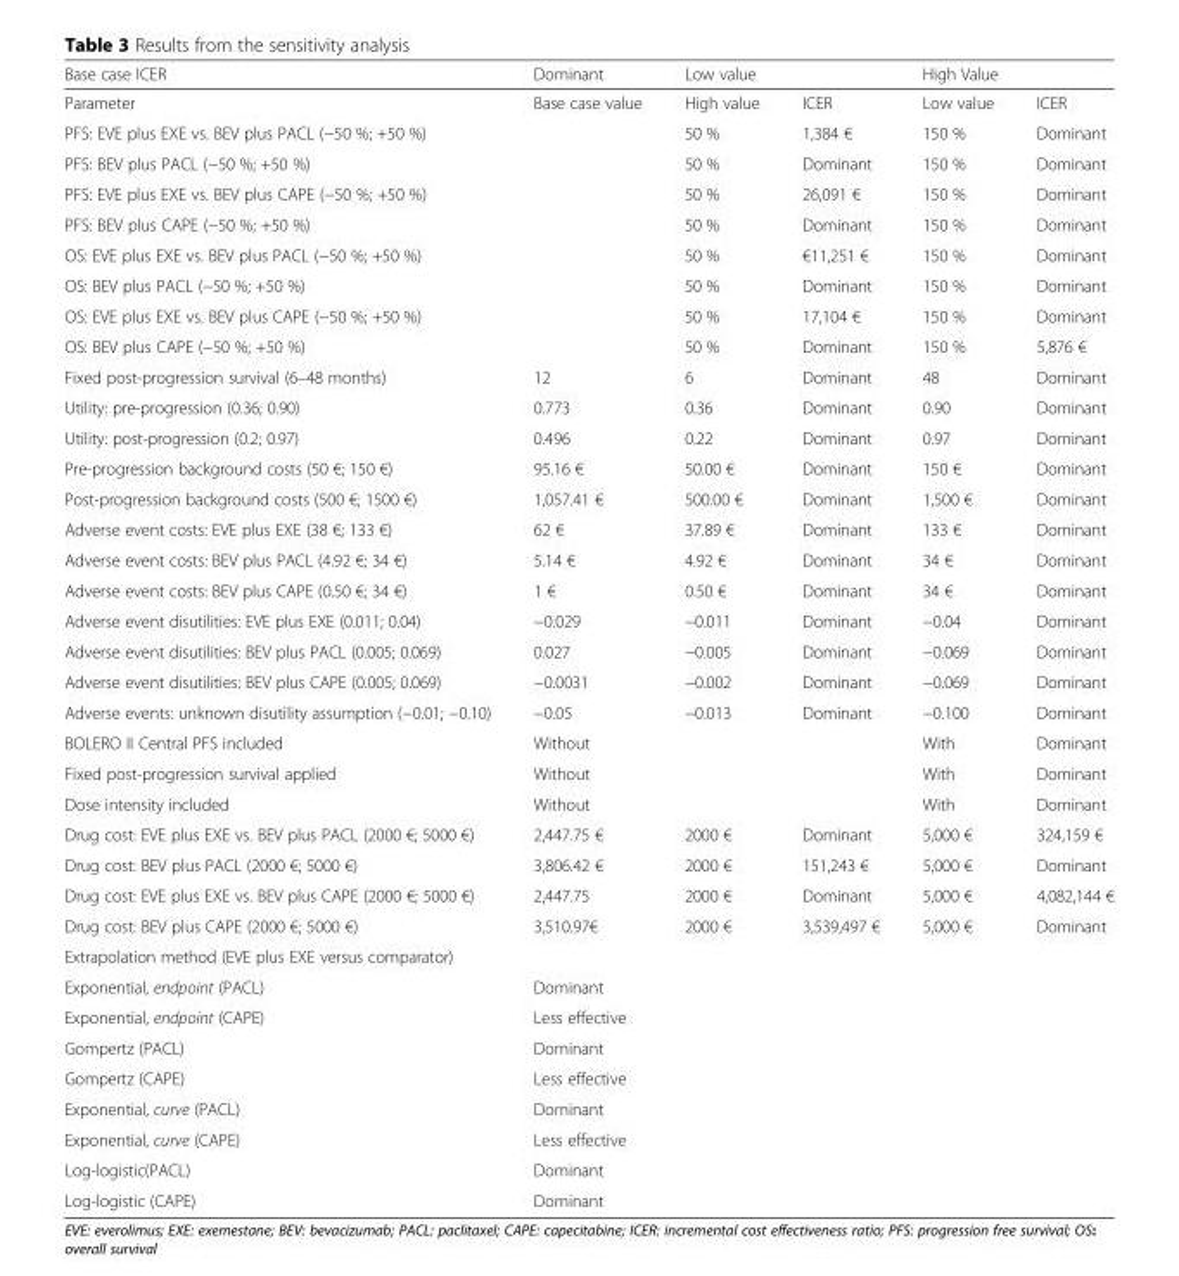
<table><thead><tr><td rowspan="2">Base case ICER Parameter</td><td rowspan="2">Dominant Base case value</td><td colspan="2">Low value</td><td colspan="2">High Value</td></tr><tr><td>High value</td><td>ICER</td><td>Low value</td><td>ICER</td></tr></thead><tbody><tr><td>PFS: EVE plus EXE vs. BEV plus PACL (−50 %; +50 %)</td><td></td><td>50 %</td><td>1,384 €</td><td>150 %</td><td>Dominant</td></tr><tr><td>PFS: BEV plus PACL (−50 %; +50 %)</td><td></td><td>50 %</td><td>Dominant</td><td>150 %</td><td>Dominant</td></tr><tr><td>PFS: EVE plus EXE vs. BEV plus CAPE (−50 %; +50 %)</td><td></td><td>50 %</td><td>26,091 €</td><td>150 %</td><td>Dominant</td></tr><tr><td>PFS: BEV plus CAPE (−50 %; +50 %)</td><td></td><td>50 %</td><td>Dominant</td><td>150 %</td><td>Dominant</td></tr><tr><td>OS: EVE plus EXE vs. BEV plus PACL (−50 %; +50 %)</td><td></td><td>50 %</td><td>€11,251 €</td><td>150 %</td><td>Dominant</td></tr><tr><td>OS: BEV plus PACL (−50 %; +50 %)</td><td></td><td>50 %</td><td>Dominant</td><td>150 %</td><td>Dominant</td></tr><tr><td>OS: EVE plus EXE vs. BEV plus CAPE (−50 %; +50 %)</td><td></td><td>50 %</td><td>17,104 €</td><td>150 %</td><td>Dominant</td></tr><tr><td>OS: BEV plus CAPE (−50 %; +50 %)</td><td></td><td>50 %</td><td>Dominant</td><td>150 %</td><td>5,876 €</td></tr><tr><td>Fixed post-progression survival (6–48 months)</td><td>12</td><td>6</td><td>Dominant</td><td>48</td><td>Dominant</td></tr><tr><td>Utility: pre-progression (0.36; 0.90)</td><td>0.773</td><td>0.36</td><td>Dominant</td><td>0.90</td><td>Dominant</td></tr><tr><td>Utility: post-progression (0.2; 0.97)</td><td>0.496</td><td>0.22</td><td>Dominant</td><td>0.97</td><td>Dominant</td></tr><tr><td>Pre-progression background costs (50 €; 150 €)</td><td>95.16 €</td><td>50.00 €</td><td>Dominant</td><td>150 €</td><td>Dominant</td></tr><tr><td>Post-progression background costs (500 €; 1500 €)</td><td>1,057.41 €</td><td>500.00 €</td><td>Dominant</td><td>1,500 €</td><td>Dominant</td></tr><tr><td>Adverse event costs: EVE plus EXE (38 €; 133 €)</td><td>62 €</td><td>37.89 €</td><td>Dominant</td><td>133 €</td><td>Dominant</td></tr><tr><td>Adverse event costs: BEV plus PACL (4.92 €; 34 €)</td><td>5.14 €</td><td>4.92 €</td><td>Dominant</td><td>34 €</td><td>Dominant</td></tr><tr><td>Adverse event costs: BEV plus CAPE (0.50 €; 34 €)</td><td>1 €</td><td>0.50 €</td><td>Dominant</td><td>34 €</td><td>Dominant</td></tr><tr><td>Adverse event disutilities: EVE plus EXE (0.011; 0.04)</td><td>−0.029</td><td>−0.011</td><td>Dominant</td><td>−0.04</td><td>Dominant</td></tr><tr><td>Adverse event disutilities: BEV plus PACL (0.005; 0.069)</td><td>0.027</td><td>−0.005</td><td>Dominant</td><td>−0.069</td><td>Dominant</td></tr><tr><td>Adverse event disutilities: BEV plus CAPE (0.005; 0.069)</td><td>−0.0031</td><td>−0.002</td><td>Dominant</td><td>−0.069</td><td>Dominant</td></tr><tr><td>Adverse events: unknown disutility assumption (−0.01; −0.10)</td><td>−0.05</td><td>−0.013</td><td>Dominant</td><td>−0.100</td><td>Dominant</td></tr><tr><td>BOLERO II Central PFS included</td><td>Without</td><td></td><td></td><td>With</td><td>Dominant</td></tr><tr><td>Fixed post-progression survival applied</td><td>Without</td><td></td><td></td><td>With</td><td>Dominant</td></tr><tr><td>Dose intensity included</td><td>Without</td><td></td><td></td><td>With</td><td>Dominant</td></tr><tr><td>Drug cost: EVE plus EXE vs. BEV plus PACL (2000 €; 5000 €)</td><td>2,447.75 €</td><td>2000 €</td><td>Dominant</td><td>5,000 €</td><td>324,159 €</td></tr><tr><td>Drug cost: BEV plus PACL (2000 €; 5000 €)</td><td>3,806.42 €</td><td>2000 €</td><td>151,243 €</td><td>5,000 €</td><td>Dominant</td></tr><tr><td>Drug cost: EVE plus EXE vs. BEV plus CAPE (2000 €; 5000 €)</td><td>2,447.75</td><td>2000 €</td><td>Dominant</td><td>5,000 €</td><td>4,082,144 €</td></tr><tr><td>Drug cost: BEV plus CAPE (2000 €; 5000 €)</td><td>3,510.97€</td><td>2000 €</td><td>3,539,497 €</td><td>5,000 €</td><td>Dominant</td></tr><tr><td colspan="6">Extrapolation method (EVE plus EXE versus comparator)</td></tr><tr><td>Exponential, endpoint (PACL)</td><td colspan="5">Dominant</td></tr><tr><td>Exponential, endpoint (CAPE)</td><td colspan="5">Less effective</td></tr><tr><td>Gompertz (PACL)</td><td colspan="5">Dominant</td></tr><tr><td>Gompertz (CAPE)</td><td colspan="5">Less effective</td></tr><tr><td>Exponential, curve (PACL)</td><td colspan="5">Dominant</td></tr><tr><td>Exponential, curve (CAPE)</td><td colspan="5">Less effective</td></tr><tr><td>Log-logistic(PACL)</td><td colspan="5">Dominant</td></tr><tr><td>Log-logistic (CAPE)</td><td colspan="5">Dominant</td></tr></tbody></table>